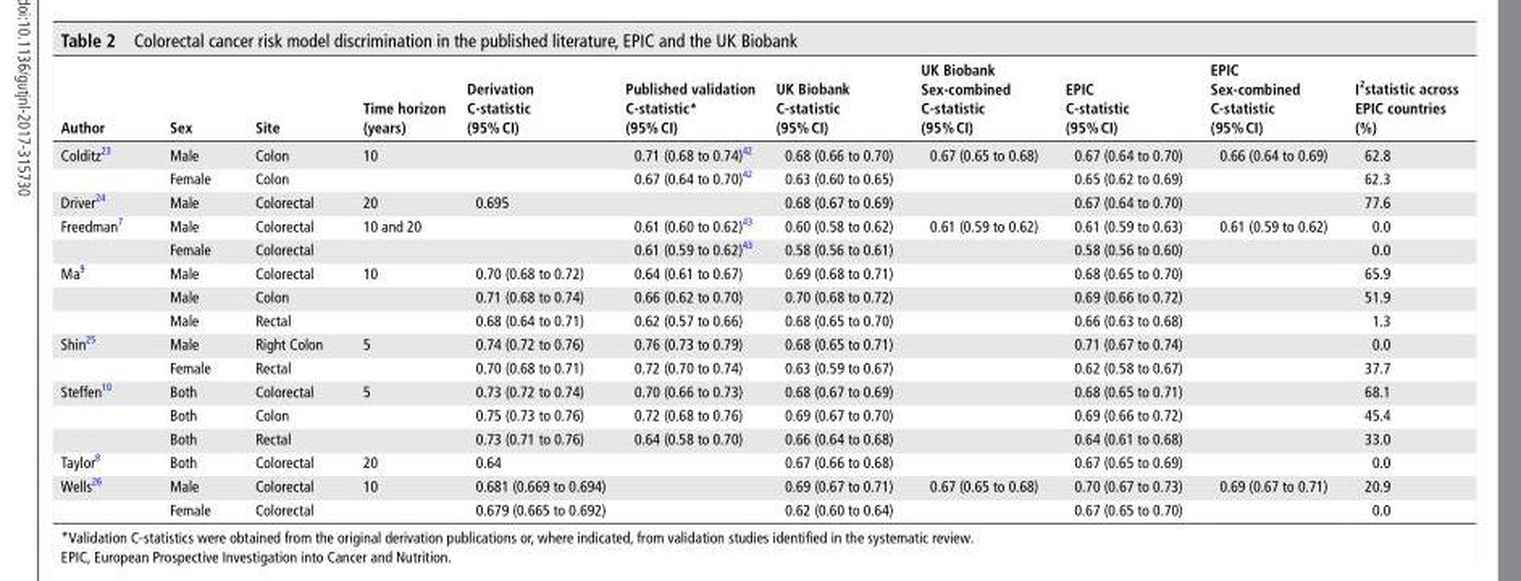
<table><thead><tr><td>Author</td><td>sex</td><td>site</td><td>Time horizon (years)</td><td>Derivation C-statistic (95% CI)</td><td>Published validation C-statistic* (95% CI)</td><td>uK biobank C-statistic (95% CI)</td><td>uK biobank sex-combined C-statistic (95% CI)</td><td>ePIC C-statistic (95% CI)</td><td>ePIC sex-combined C-statistic (95% CI)</td><td>I<sup>2</sup>statistic across ePIC countries (%)</td></tr></thead><tbody><tr><td rowspan="2">Colditz<sup>23</sup></td><td>Male</td><td>Colon</td><td>10</td><td></td><td>0.71 (0.68 to 0.74)<sup>42</sup></td><td>0.68 (0.66 to 0.70)</td><td>0.67 (0.65 to 0.68)</td><td>0.67 (0.64 to 0.70)</td><td>0.66 (0.64 to 0.69)</td><td>62.8</td></tr><tr><td>Female</td><td>Colon</td><td></td><td></td><td>0.67 (0.64 to 0.70)<sup>42</sup></td><td>0.63 (0.60 to 0.65)</td><td></td><td>0.65 (0.62 to 0.69)</td><td></td><td>62.3</td></tr><tr><td>Driver<sup>24</sup></td><td>Male</td><td>Colorectal</td><td>20</td><td>0.695</td><td></td><td>0.68 (0.67 to 0.69)</td><td></td><td>0.67 (0.64 to 0.70)</td><td></td><td>77.6</td></tr><tr><td rowspan="2">Freedman<sup>7</sup></td><td>Male</td><td>Colorectal</td><td>10 and 20</td><td></td><td>0.61 (0.60 to 0.62)<sup>43</sup></td><td>0.60 (0.58 to 0.62)</td><td>0.61 (0.59 to 0.62)</td><td>0.61 (0.59 to 0.63)</td><td>0.61 (0.59 to 0.62)</td><td>0.0</td></tr><tr><td>Female</td><td>Colorectal</td><td></td><td></td><td>0.61 (0.59 to 0.62)<sup>43</sup></td><td>0.58 (0.56 to 0.61)</td><td></td><td>0.58 (0.56 to 0.60)</td><td></td><td>0.0</td></tr><tr><td rowspan="3">Ma<sup>9</sup></td><td>Male</td><td>Colorectal</td><td>10</td><td>0.70 (0.68 to 0.72)</td><td>0.64 (0.61 to 0.67)</td><td>0.69 (0.68 to 0.71)</td><td></td><td>0.68 (0.65 to 0.70)</td><td></td><td>65.9</td></tr><tr><td>Male</td><td>Colon</td><td></td><td>0.71 (0.68 to 0.74)</td><td>0.66 (0.62 to 0.70)</td><td>0.70 (0.68 to 0.72)</td><td></td><td>0.69 (0.66 to 0.72)</td><td></td><td>51.9</td></tr><tr><td>Male</td><td>Rectal</td><td></td><td>0.68 (0.64 to 0.71)</td><td>0.62 (0.57 to 0.66)</td><td>0.68 (0.65 to 0.70)</td><td></td><td>0.66 (0.63 to 0.68)</td><td></td><td>1.3</td></tr><tr><td rowspan="2">Shin<sup>25</sup></td><td>Male</td><td>Right Colon</td><td>5</td><td>0.74 (0.72 to 0.76)</td><td>0.76 (0.73 to 0.79)</td><td>0.68 (0.65 to 0.71)</td><td></td><td>0.71 (0.67 to 0.74)</td><td></td><td>0.0</td></tr><tr><td>Female</td><td>Rectal</td><td></td><td>0.70 (0.68 to 0.71)</td><td>0.72 (0.70 to 0.74)</td><td>0.63 (0.59 to 0.67)</td><td></td><td>0.62 (0.58 to 0.67)</td><td></td><td>37.7</td></tr><tr><td rowspan="3">Steffen<sup>10</sup></td><td>Both</td><td>Colorectal</td><td>5</td><td>0.73 (0.72 to 0.74)</td><td>0.70 (0.66 to 0.73)</td><td>0.68 (0.67 to 0.69)</td><td></td><td>0.68 (0.65 to 0.71)</td><td></td><td>68.1</td></tr><tr><td>Both</td><td>Colon</td><td></td><td>0.75 (0.73 to 0.76)</td><td>0.72 (0.68 to 0.76)</td><td>0.69 (0.67 to 0.70)</td><td></td><td>0.69 (0.66 to 0.72)</td><td></td><td>45.4</td></tr><tr><td>Both</td><td>Rectal</td><td></td><td>0.73 (0.71 to 0.76)</td><td>0.64 (0.58 to 0.70)</td><td>0.66 (0.64 to 0.68)</td><td></td><td>0.64 (0.61 to 0.68)</td><td></td><td>33.0</td></tr><tr><td>Taylor<sup>8</sup></td><td>Both</td><td>Colorectal</td><td>20</td><td>0.64</td><td></td><td>0.67 (0.66 to 0.68)</td><td></td><td>0.67 (0.65 to 0.69)</td><td></td><td>0.0</td></tr><tr><td rowspan="2">Wells<sup>26</sup></td><td>Male</td><td>Colorectal</td><td>10</td><td>0.681 (0.669 to 0.694)</td><td></td><td>0.69 (0.67 to 0.71)</td><td>0.67 (0.65 to 0.68)</td><td>0.70 (0.67 to 0.73)</td><td>0.69 (0.67 to 0.71)</td><td>20.9</td></tr><tr><td>Female</td><td>Colorectal</td><td></td><td>0.679 (0.665 to 0.692)</td><td></td><td>0.62 (0.60 to 0.64)</td><td></td><td>0.67 (0.65 to 0.70)</td><td></td><td>0.0</td></tr></tbody></table>